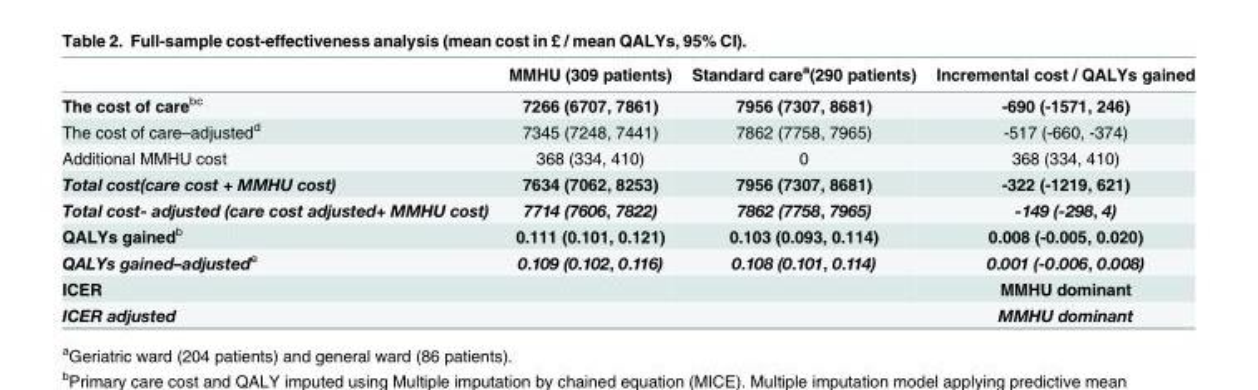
<table><thead><tr><td></td><td>MMHU (309 patients)</td><td>Standard care<sup>a</sup>(290 patients)</td><td>Incremental cost / QALYs gained</td></tr></thead><tbody><tr><td>The cost of care<sup>bc</sup></td><td>7266 (6707, 7861)</td><td>7956 (7307, 8681)</td><td>-690 (-1571, 246)</td></tr><tr><td>The cost of care–adjusted<sup>d</sup></td><td>7345 (7248, 7441)</td><td>7862 (7758, 7965)</td><td>-517 (-660, -374)</td></tr><tr><td>Additional MMHU cost</td><td>368 (334, 410)</td><td>0</td><td>368 (334, 410)</td></tr><tr><td>Total cost(care cost + MMHU cost)</td><td>7634 (7062, 8253)</td><td>7956 (7307, 8681)</td><td>-322 (-1219, 621)</td></tr><tr><td>Total cost- adjusted (care cost adjusted+ MMHU cost)</td><td>7714 (7606, 7822)</td><td>7862 (7758, 7965)</td><td>-149 (-298, 4)</td></tr><tr><td>QALYs gained<sup>b</sup></td><td>0.111 (0.101, 0.121)</td><td>0.103 (0.093, 0.114)</td><td>0.008 (-0.005, 0.020)</td></tr><tr><td>QALYs gained–adjusted<sup>e</sup></td><td>0.109 (0.102, 0.116)</td><td>0.108 (0.101, 0.114)</td><td>0.001 (-0.006, 0.008)</td></tr><tr><td>ICER</td><td></td><td></td><td>MMHU dominant</td></tr><tr><td>ICER adjusted</td><td></td><td></td><td>MMHU dominant</td></tr></tbody></table>